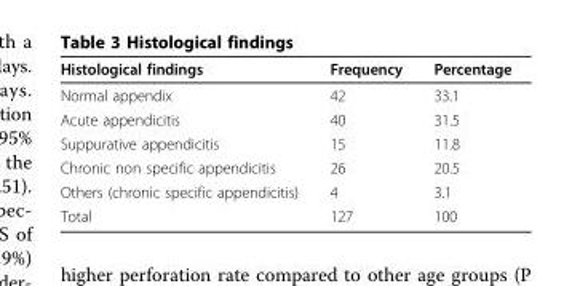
<table><thead><tr><td>Histological findings</td><td>Frequency</td><td>Percentage</td></tr></thead><tbody><tr><td>Normal appendix</td><td>42</td><td>33.1</td></tr><tr><td>Acute appendicitis</td><td>40</td><td>31.5</td></tr><tr><td>Suppurative appendicitis</td><td>15</td><td>11.8</td></tr><tr><td>Chronic non specific appendicitis</td><td>26</td><td>20.5</td></tr><tr><td>Others (chronic specific appendicitis)</td><td>4</td><td>3.1</td></tr><tr><td>Total</td><td>127</td><td>100</td></tr></tbody></table>